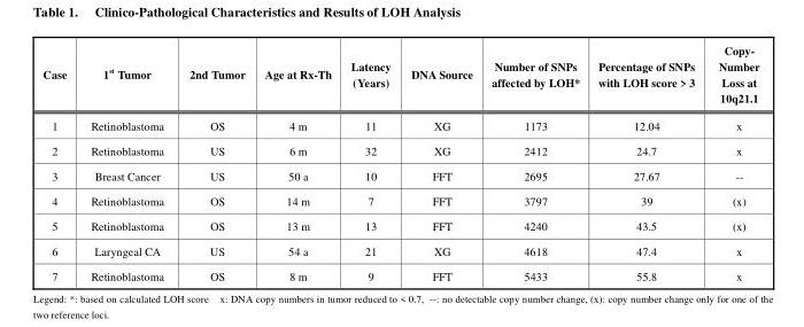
<table><thead><tr><td>Case</td><td>1<sup>st</sup> Tumor</td><td>2nd Tumor</td><td>Age at Rx-Th</td><td>Latency (Years)</td><td>DNA Source</td><td>Number of SNPs affected by LOH*</td><td>Percentage of SNPs with LOH score &gt; 3</td><td>Copy- Number Loss at 10q21.1</td></tr></thead><tbody><tr><td>1</td><td>Retinoblastoma</td><td>OS</td><td>4 m</td><td>11</td><td>XG</td><td>1173</td><td>12.04</td><td>x</td></tr><tr><td>2</td><td>Retinoblastoma</td><td>US</td><td>6 m</td><td>32</td><td>XG</td><td>2412</td><td>24.7</td><td>x</td></tr><tr><td>3</td><td>Breast Cancer</td><td>US</td><td>50 a</td><td>10</td><td>FFT</td><td>2695</td><td>27.67</td><td>--</td></tr><tr><td>4</td><td>Retinoblastoma</td><td>OS</td><td>14 m</td><td>7</td><td>FFT</td><td>3797</td><td>39</td><td>(x)</td></tr><tr><td>5</td><td>Retinoblastoma</td><td>OS</td><td>13 m</td><td>13</td><td>FFT</td><td>4240</td><td>43.5</td><td>(x)</td></tr><tr><td>6</td><td>Laryngeal CA</td><td>US</td><td>54 a</td><td>21</td><td>XG</td><td>4618</td><td>47.4</td><td>x</td></tr><tr><td>7</td><td>Retinoblastoma</td><td>OS</td><td>8 m</td><td>9</td><td>FFT</td><td>5433</td><td>55.8</td><td>x</td></tr></tbody></table>